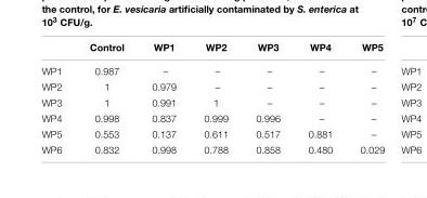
<table><thead><tr><td></td><td>Control</td><td>WP1</td><td>WP2</td><td>WP3</td><td>WP4</td><td>WP5</td></tr></thead><tbody><tr><td>WP1</td><td>0.987</td><td>–</td><td>–</td><td>–</td><td>–</td><td>–</td></tr><tr><td>WP2</td><td>1</td><td>0.979</td><td>–</td><td>–</td><td>–</td><td>–</td></tr><tr><td>WP3</td><td>1</td><td>0.991</td><td>1</td><td>–</td><td>–</td><td>–</td></tr><tr><td>WP4</td><td>0.998</td><td>0.837</td><td>0.999</td><td>0.996</td><td>–</td><td>–</td></tr><tr><td>WP5</td><td>0.553</td><td>0.137</td><td>0.611</td><td>0.517</td><td>0.881</td><td>–</td></tr><tr><td>WP6</td><td>0.832</td><td>0.998</td><td>0.788</td><td>0.858</td><td>0.480</td><td>0.029</td></tr></tbody></table>